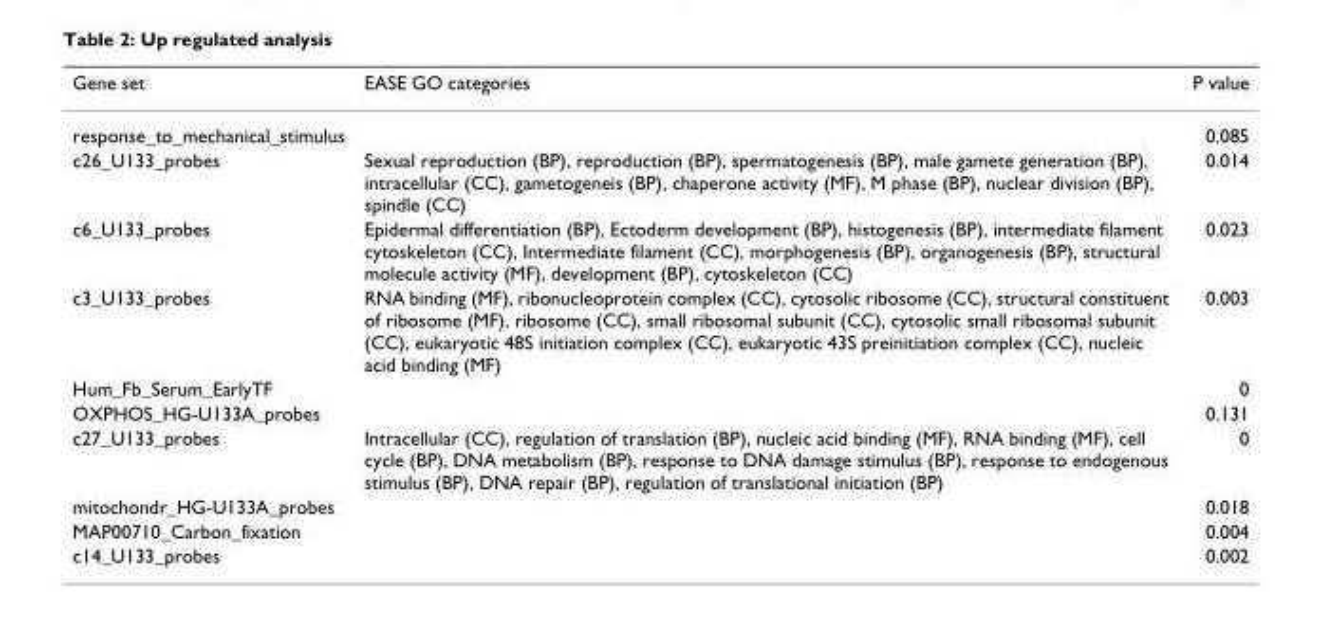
<table><thead><tr><td>Gene set</td><td>EASE GO categories</td><td>P value</td></tr></thead><tbody><tr><td>response_to_mechanical_stimulus</td><td></td><td>0.085</td></tr><tr><td>c26_U133_probes</td><td>Sexual reproduction (BP), reproduction (BP), spermatogenesis (BP), male gamete generation (BP), intracellular (CC), gametogeneis (BP), chaperone activity (MF), M phase (BP), nuclear division (BP), spindle (CC)</td><td>0.014</td></tr><tr><td>c6_U133_probes</td><td>Epidermal differentiation (BP), Ectoderm development (BP), histogenesis (BP), intermediate filament cytoskeleton (CC), Intermediate filament (CC), morphogenesis (BP), organogenesis (BP), structural molecule activity (MF), development (BP), cytoskeleton (CC)</td><td>0.023</td></tr><tr><td>c3_U133_probes</td><td>RNA binding (MF), ribonucleoprotein complex (CC), cytosolic ribosome (CC), structural constituent of ribosome (MF), ribosome (CC), small ribosomal subunit (CC), cytosolic small ribosomal subunit (CC), eukaryotic 48S initiation complex (CC), eukaryotic 43S preinitiation complex (CC), nucleic acid binding (MF)</td><td>0.003</td></tr><tr><td>Hum_Fb_Serum_EarlyTF</td><td></td><td>0</td></tr><tr><td>OXPHOS_HG-U133A_probes</td><td></td><td>0.131</td></tr><tr><td>c27_U133_probes</td><td>Intracellular (CC), regulation of translation (BP), nucleic acid binding (MF), RNA binding (MF), cell cycle (BP), DNA metabolism (BP), response to DNA damage stimulus (BP), response to endogenous stimulus (BP), DNA repair (BP), regulation of translational initiation (BP)</td><td>0</td></tr><tr><td>mitochondr_HG-U133A_probes</td><td></td><td>0.018</td></tr><tr><td>MAP00710_Carbon_fixation</td><td></td><td>0.004</td></tr><tr><td>c14_U133_probes</td><td></td><td>0.002</td></tr></tbody></table>